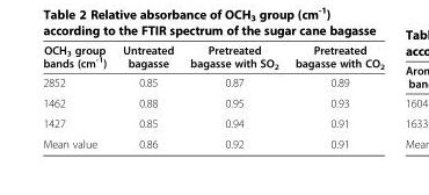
<table><thead><tr><td>OCH<sub>3</sub> group bands (cm<sup>-1</sup>)</td><td>Untreated bagasse</td><td>Pretreated bagasse with SO<sub>2</sub></td><td>Pretreated bagasse with CO<sub>2</sub></td></tr></thead><tbody><tr><td>2852</td><td>0.85</td><td>0.87</td><td>0.89</td></tr><tr><td>1462</td><td>0.88</td><td>0.95</td><td>0.93</td></tr><tr><td>1427</td><td>0.85</td><td>0.94</td><td>0.91</td></tr><tr><td>Mean value</td><td>0.86</td><td>0.92</td><td>0.91</td></tr></tbody></table>